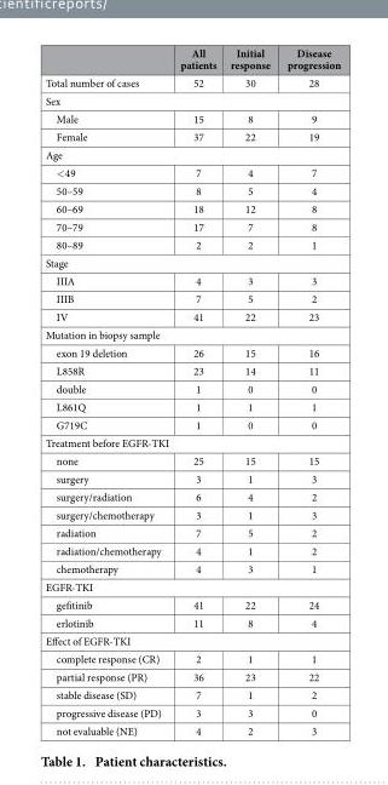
<table><thead><tr><td></td><td>All patients</td><td>Initial response</td><td>Disease progression</td></tr></thead><tbody><tr><td>Total number of cases</td><td>52</td><td>30</td><td>28</td></tr><tr><td colspan="4">Sex</td></tr><tr><td>Male</td><td>15</td><td>8</td><td>9</td></tr><tr><td>Female</td><td>37</td><td>22</td><td>19</td></tr><tr><td colspan="4">Age</td></tr><tr><td>&lt; 49</td><td>7</td><td>4</td><td>7</td></tr><tr><td>50–59</td><td>8</td><td>5</td><td>4</td></tr><tr><td>60–69</td><td>18</td><td>12</td><td>8</td></tr><tr><td>70–79</td><td>17</td><td>7</td><td>8</td></tr><tr><td>80–89</td><td>2</td><td>2</td><td>1</td></tr><tr><td colspan="4">Stage</td></tr><tr><td>IIIA</td><td>4</td><td>3</td><td>3</td></tr><tr><td>IIIB</td><td>7</td><td>5</td><td>2</td></tr><tr><td>IV</td><td>41</td><td>22</td><td>23</td></tr><tr><td colspan="4">Mutation in biopsy sample</td></tr><tr><td>exon 19 deletion</td><td>26</td><td>15</td><td>16</td></tr><tr><td>L858R</td><td>23</td><td>14</td><td>11</td></tr><tr><td>double</td><td>1</td><td>0</td><td>0</td></tr><tr><td>L861Q</td><td>1</td><td>1</td><td>1</td></tr><tr><td>G719C</td><td>1</td><td>0</td><td>0</td></tr><tr><td colspan="4">Treatment before EGFR-TKI</td></tr><tr><td>none</td><td>25</td><td>15</td><td>15</td></tr><tr><td>surgery</td><td>3</td><td>1</td><td>3</td></tr><tr><td>surgery/radiation</td><td>6</td><td>4</td><td>2</td></tr><tr><td>surgery/chemotherapy</td><td>3</td><td>1</td><td>3</td></tr><tr><td>radiation</td><td>7</td><td>5</td><td>2</td></tr><tr><td>radiation/chemotherapy</td><td>4</td><td>1</td><td>2</td></tr><tr><td>chemotherapy</td><td>4</td><td>3</td><td>1</td></tr><tr><td colspan="4">EGFR-TKI</td></tr><tr><td>gefitinib</td><td>41</td><td>22</td><td>24</td></tr><tr><td>erlotinib</td><td>11</td><td>8</td><td>4</td></tr><tr><td colspan="4">Effect of EGFR-TKI</td></tr><tr><td>complete response (CR)</td><td>2</td><td>1</td><td>1</td></tr><tr><td>partial response (PR)</td><td>36</td><td>23</td><td>22</td></tr><tr><td>stable disease (SD)</td><td>7</td><td>1</td><td>2</td></tr><tr><td>progressive disease (PD)</td><td>3</td><td>3</td><td>0</td></tr><tr><td>not evaluable (NE)</td><td>4</td><td>2</td><td>3</td></tr></tbody></table>